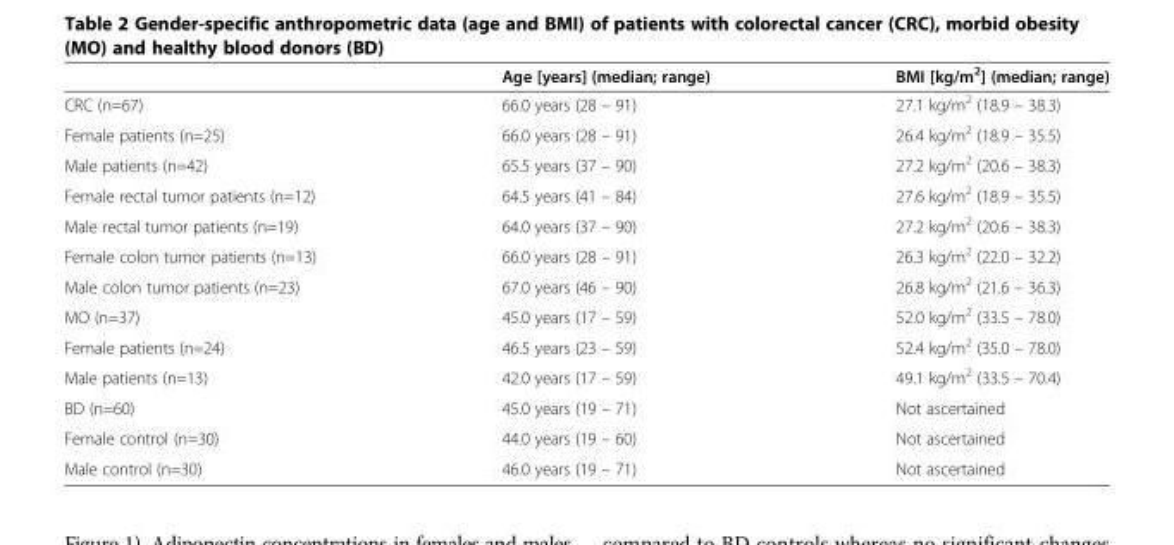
<table><thead><tr><td></td><td>Age [years] (median; range)</td><td>BMI [kg/m<sup>2</sup>] (median; range)</td></tr></thead><tbody><tr><td>CRC (n=67)</td><td>66.0 years (28 – 91)</td><td>27.1 kg/m<sup>2</sup> (18.9 – 38.3)</td></tr><tr><td>Female patients (n=25)</td><td>66.0 years (28 – 91)</td><td>26.4 kg/m<sup>2</sup> (18.9 – 35.5)</td></tr><tr><td>Male patients (n=42)</td><td>65.5 years (37 – 90)</td><td>27.2 kg/m<sup>2</sup> (20.6 – 38.3)</td></tr><tr><td>Female rectal tumor patients (n=12)</td><td>64.5 years (41 – 84)</td><td>27.6 kg/m<sup>2</sup> (18.9 – 35.5)</td></tr><tr><td>Male rectal tumor patients (n=19)</td><td>64.0 years (37 – 90)</td><td>27.2 kg/m<sup>2</sup> (20.6 – 38.3)</td></tr><tr><td>Female colon tumor patients (n=13)</td><td>66.0 years (28 – 91)</td><td>26.3 kg/m<sup>2</sup> (22.0 – 32.2)</td></tr><tr><td>Male colon tumor patients (n=23)</td><td>67.0 years (46 – 90)</td><td>26.8 kg/m<sup>2</sup> (21.6 – 36.3)</td></tr><tr><td>MO (n=37)</td><td>45.0 years (17 – 59)</td><td>52.0 kg/m<sup>2</sup> (33.5 – 78.0)</td></tr><tr><td>Female patients (n=24)</td><td>46.5 years (23 – 59)</td><td>52.4 kg/m<sup>2</sup> (35.0 – 78.0)</td></tr><tr><td>Male patients (n=13)</td><td>42.0 years (17 – 59)</td><td>49.1 kg/m<sup>2</sup> (33.5 – 70.4)</td></tr><tr><td>BD (n=60)</td><td>45.0 years (19 – 71)</td><td>Not ascertained</td></tr><tr><td>Female control (n=30)</td><td>44.0 years (19 – 60)</td><td>Not ascertained</td></tr><tr><td>Male control (n=30)</td><td>46.0 years (19 – 71)</td><td>Not ascertained</td></tr></tbody></table>